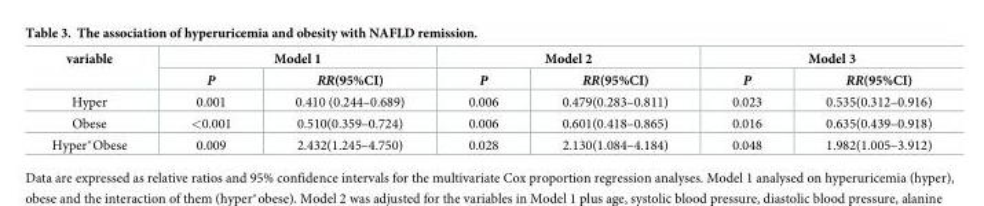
<table><thead><tr><td rowspan="2">variable</td><td colspan="2">Model 1</td><td colspan="2">Model 2</td><td colspan="2">Model 3</td></tr><tr><td>P</td><td>RR(95%CI)</td><td>P</td><td>RR(95%CI)</td><td>P</td><td>RR(95%CI)</td></tr></thead><tbody><tr><td>Hyper</td><td>0.001</td><td>0.410 (0.244–0.689)</td><td>0.006</td><td>0.479(0.283–0.811)</td><td>0.023</td><td>0.535(0.312–0.916)</td></tr><tr><td>Obese</td><td>&lt;0.001</td><td>0.510(0.359–0.724)</td><td>0.006</td><td>0.601(0.418–0.865)</td><td>0.016</td><td>0.635(0.439–0.918)</td></tr><tr><td>Hyper*Obese</td><td>0.009</td><td>2.432(1.245–4.750)</td><td>0.028</td><td>2.130(1.084–4.184)</td><td>0.048</td><td>1.982(1.005–3.912)</td></tr></tbody></table>